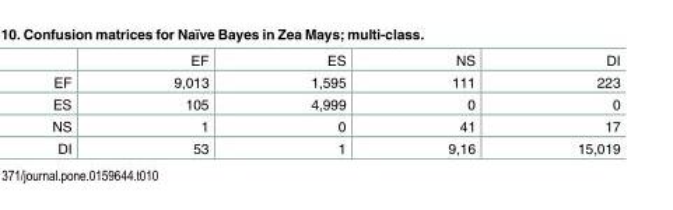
<table><thead><tr><td></td><td>EF</td><td>ES</td><td>NS</td><td>DI</td></tr></thead><tbody><tr><td>EF</td><td>9,013</td><td>1,595</td><td>111</td><td>223</td></tr><tr><td>ES</td><td>105</td><td>4,999</td><td>0</td><td>0</td></tr><tr><td>NS</td><td>1</td><td>0</td><td>41</td><td>17</td></tr><tr><td>DI</td><td>53</td><td>1</td><td>9,16</td><td>15,019</td></tr></tbody></table>